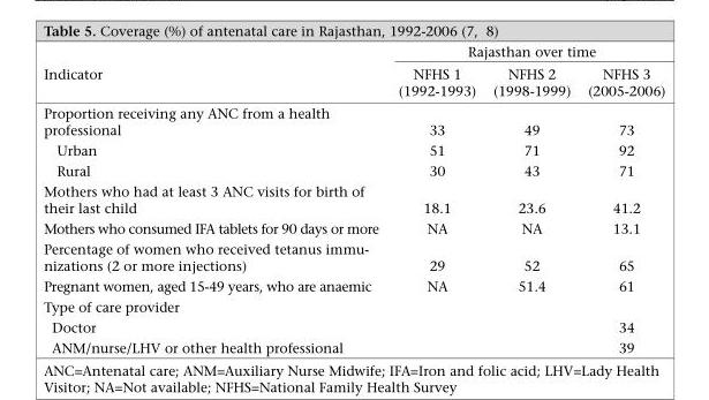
<table><thead><tr><td rowspan="2">Indicator</td><td colspan="3">Rajasthan over time</td></tr><tr><td>NFHS 1 (1992-1993)</td><td>NFHS 2 (1998-1999)</td><td>NFHS 3 (2005-2006)</td></tr></thead><tbody><tr><td>Proportion receiving any ANC from a health professional</td><td>33</td><td>49</td><td>73</td></tr><tr><td>Urban</td><td>51</td><td>71</td><td>92</td></tr><tr><td>Rural</td><td>30</td><td>43</td><td>71</td></tr><tr><td>Mothers who had at least 3 ANC visits for birth of their last child</td><td>18.1</td><td>23.6</td><td>41.2</td></tr><tr><td>Mothers who consumed IFA tablets for 90 days or more</td><td>NA</td><td>NA</td><td>13.1</td></tr><tr><td>Percentage of women who received tetanus immu- nizations (2 or more injections)</td><td>29</td><td>52</td><td>65</td></tr><tr><td>Pregnant women, aged 15-49 years, who are anaemic</td><td>NA</td><td>51.4</td><td>61</td></tr><tr><td colspan="4">Type of care provider</td></tr><tr><td>Doctor</td><td></td><td></td><td>34</td></tr><tr><td>ANM/nurse/LHV or other health professional</td><td></td><td></td><td>39</td></tr></tbody></table>